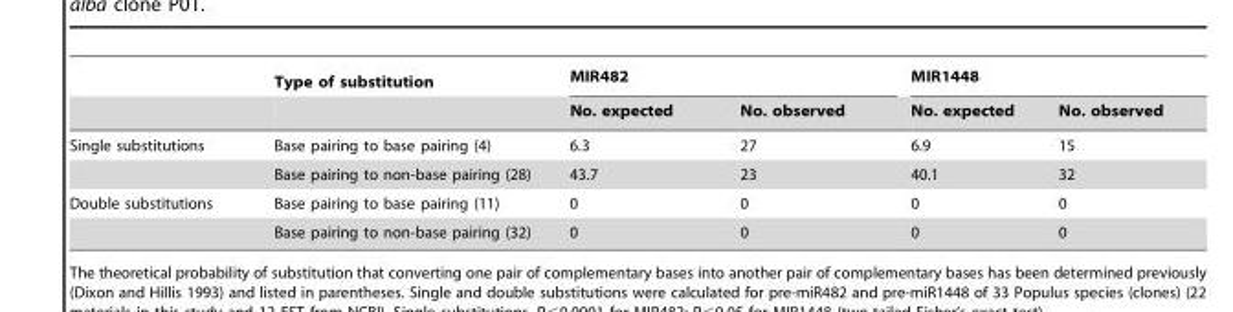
<table><thead><tr><td rowspan="2"></td><td rowspan="2">Type of substitution</td><td colspan="2">MIR482</td><td colspan="2">MIR1448</td></tr><tr><td>No. expected</td><td>No. observed</td><td>No. expected</td><td>No. observed</td></tr></thead><tbody><tr><td rowspan="2">Single substitutions</td><td>Base pairing to base pairing (4)</td><td>6.3</td><td>27</td><td>6.9</td><td>15</td></tr><tr><td>Base pairing to non-base pairing (28)</td><td>43.7</td><td>23</td><td>40.1</td><td>32</td></tr><tr><td rowspan="2">Double substitutions</td><td>Base pairing to base pairing (11)</td><td>0</td><td>0</td><td>0</td><td>0</td></tr><tr><td>Base pairing to non-base pairing (32)</td><td>0</td><td>0</td><td>0</td><td>0</td></tr></tbody></table>